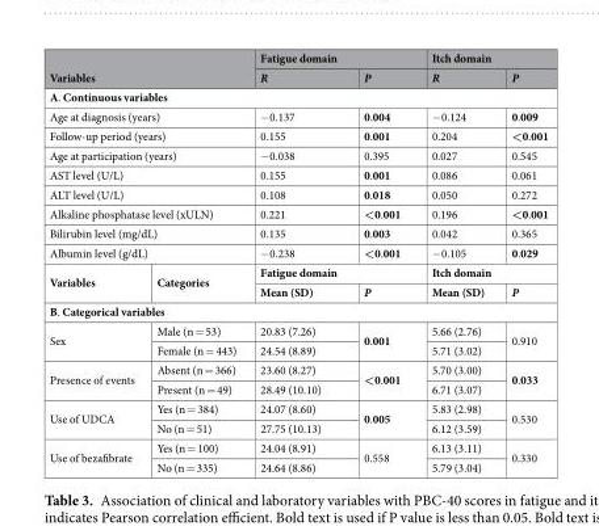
<table><thead><tr><td rowspan="2" colspan="2">Variables</td><td colspan="2">Fatigue domain</td><td colspan="2">Itch domain</td></tr><tr><td>R</td><td>P</td><td>R</td><td>P</td></tr></thead><tbody><tr><td colspan="6">A. Continuous variables</td></tr><tr><td colspan="2">Age at diagnosis (years)</td><td>−0.137</td><td>0.004</td><td>−0.124</td><td>0.009</td></tr><tr><td colspan="2">Follow-up period (years)</td><td>0.155</td><td>0.001</td><td>0.204</td><td>&lt;0.001</td></tr><tr><td colspan="2">Age at participation (years)</td><td>−0.038</td><td>0.395</td><td>0.027</td><td>0.545</td></tr><tr><td colspan="2">AST level (U/L)</td><td>0.155</td><td>0.001</td><td>0.086</td><td>0.061</td></tr><tr><td colspan="2">ALT level (U/L)</td><td>0.108</td><td>0.018</td><td>0.050</td><td>0.272</td></tr><tr><td colspan="2">Alkaline phosphatase level (xULN)</td><td>0.221</td><td>&lt;0.001</td><td>0.196</td><td>&lt;0.001</td></tr><tr><td colspan="2">Bilirubin level (mg/dL)</td><td>0.135</td><td>0.003</td><td>0.042</td><td>0.365</td></tr><tr><td colspan="2">Albumin level (g/dL)</td><td>−0.238</td><td>&lt;0.001</td><td>−0.105</td><td>0.029</td></tr><tr><td rowspan="2">Variables</td><td rowspan="2">Categories</td><td colspan="2">Fatigue domain</td><td colspan="2">Itch domain</td></tr><tr><td>Mean (SD)</td><td>P</td><td>Mean (SD)</td><td>P</td></tr><tr><td colspan="6">B. Categorical variables</td></tr><tr><td rowspan="2">Sex</td><td>Male (n = 53)</td><td>20.83 (7.26)</td><td rowspan="2">0.001</td><td>5.66 (2.76)</td><td rowspan="2">0.910</td></tr><tr><td>Female (n = 443)</td><td>24.54 (8.89)</td><td>5.71 (3.02)</td></tr><tr><td rowspan="2">Presence of events</td><td>Absent (n = 366)</td><td>23.60 (8.27)</td><td rowspan="2">&lt;0.001</td><td>5.70 (3.00)</td><td rowspan="2">0.033</td></tr><tr><td>Present (n = 49)</td><td>28.49 (10.10)</td><td>6.71 (3.07)</td></tr><tr><td rowspan="2">Use of UDCA</td><td>Yes (n = 384)</td><td>24.07 (8.60)</td><td rowspan="2">0.005</td><td>5.83 (2.98)</td><td rowspan="2">0.530</td></tr><tr><td>No (n = 51)</td><td>27.75 (10.13)</td><td>6.12 (3.59)</td></tr><tr><td rowspan="2">Use of bezafibrate</td><td>Yes (n = 100)</td><td>24.04 (8.91)</td><td rowspan="2">0.558</td><td>6.13 (3.11)</td><td rowspan="2">0.330</td></tr><tr><td>No (n = 335)</td><td>24.64 (8.86)</td><td>5.79 (3.04)</td></tr></tbody></table>